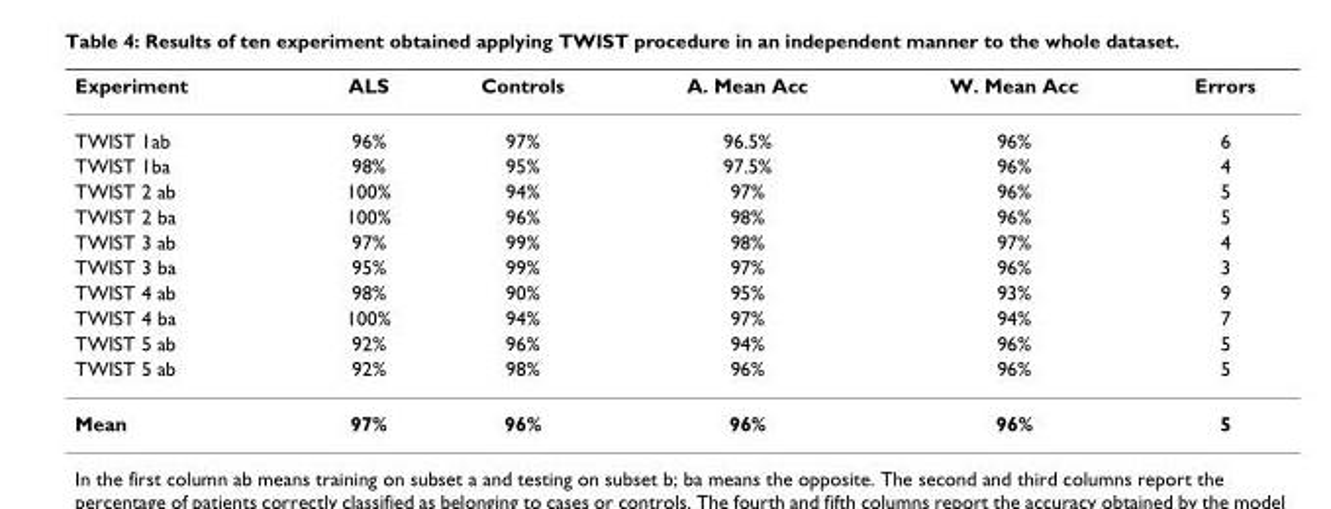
<table><thead><tr><td>Experiment</td><td>ALS</td><td>Controls</td><td>A. Mean Acc</td><td>W. Mean Acc</td><td>Errors</td></tr></thead><tbody><tr><td>TWIST 1ab</td><td>96%</td><td>97%</td><td>96.5%</td><td>96%</td><td>6</td></tr><tr><td>TWIST 1ba</td><td>98%</td><td>95%</td><td>97.5%</td><td>96%</td><td>4</td></tr><tr><td>TWIST 2 ab</td><td>100%</td><td>94%</td><td>97%</td><td>96%</td><td>5</td></tr><tr><td>TWIST 2 ba</td><td>100%</td><td>96%</td><td>98%</td><td>96%</td><td>5</td></tr><tr><td>TWIST 3 ab</td><td>97%</td><td>99%</td><td>98%</td><td>97%</td><td>4</td></tr><tr><td>TWIST 3 ba</td><td>95%</td><td>99%</td><td>97%</td><td>96%</td><td>3</td></tr><tr><td>TWIST 4 ab</td><td>98%</td><td>90%</td><td>95%</td><td>93%</td><td>9</td></tr><tr><td>TWIST 4 ba</td><td>100%</td><td>94%</td><td>97%</td><td>94%</td><td>7</td></tr><tr><td>TWIST 5 ab</td><td>92%</td><td>96%</td><td>94%</td><td>96%</td><td>5</td></tr><tr><td>TWIST 5 ab</td><td>92%</td><td>98%</td><td>96%</td><td>96%</td><td>5</td></tr><tr><td>Mean</td><td>97%</td><td>96%</td><td>96%</td><td>96%</td><td>5</td></tr></tbody></table>